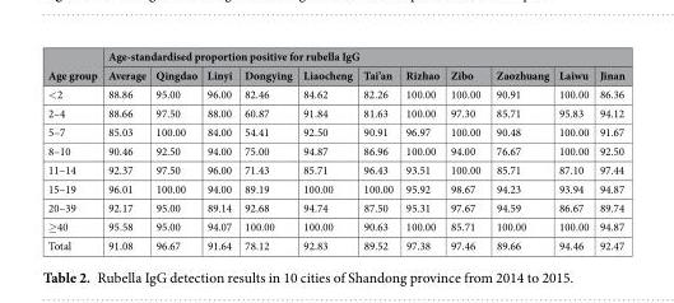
<table><thead><tr><td rowspan="2">Age group</td><td colspan="11">Age-standardised proportion positive for rubella IgG</td></tr><tr><td>Average</td><td>Qingdao</td><td>Linyi</td><td>Dongying</td><td>Liaocheng</td><td>Tai’an</td><td>Rizhao</td><td>Zibo</td><td>Zaozhuang</td><td>Laiwu</td><td>Jinan</td></tr></thead><tbody><tr><td>&lt;2</td><td>88.86</td><td>95.00</td><td>96.00</td><td>82.46</td><td>84.62</td><td>82.26</td><td>100.00</td><td>100.00</td><td>90.91</td><td>100.00</td><td>86.36</td></tr><tr><td>2–4</td><td>88.66</td><td>97.50</td><td>88.00</td><td>60.87</td><td>91.84</td><td>81.63</td><td>100.00</td><td>97.30</td><td>85.71</td><td>95.83</td><td>94.12</td></tr><tr><td>5–7</td><td>85.03</td><td>100.00</td><td>84.00</td><td>54.41</td><td>92.50</td><td>90.91</td><td>96.97</td><td>100.00</td><td>90.48</td><td>100.00</td><td>91.67</td></tr><tr><td>8–10</td><td>90.46</td><td>92.50</td><td>94.00</td><td>75.00</td><td>94.87</td><td>86.96</td><td>100.00</td><td>94.00</td><td>76.67</td><td>100.00</td><td>92.50</td></tr><tr><td>11–14</td><td>92.37</td><td>97.50</td><td>96.00</td><td>71.43</td><td>85.71</td><td>96.43</td><td>93.51</td><td>100.00</td><td>85.71</td><td>87.10</td><td>97.44</td></tr><tr><td>15–19</td><td>96.01</td><td>100.00</td><td>94.00</td><td>89.19</td><td>100.00</td><td>100.00</td><td>95.92</td><td>98.67</td><td>94.23</td><td>93.94</td><td>94.87</td></tr><tr><td>20–39</td><td>92.17</td><td>95.00</td><td>89.14</td><td>92.68</td><td>94.74</td><td>87.50</td><td>95.31</td><td>97.67</td><td>94.59</td><td>86.67</td><td>89.74</td></tr><tr><td>≥40</td><td>95.58</td><td>95.00</td><td>94.07</td><td>100.00</td><td>100.00</td><td>90.63</td><td>100.00</td><td>85.71</td><td>100.00</td><td>100.00</td><td>94.87</td></tr><tr><td>Total</td><td>91.08</td><td>96.67</td><td>91.64</td><td>78.12</td><td>92.83</td><td>89.52</td><td>97.38</td><td>97.46</td><td>89.66</td><td>94.46</td><td>92.47</td></tr></tbody></table>